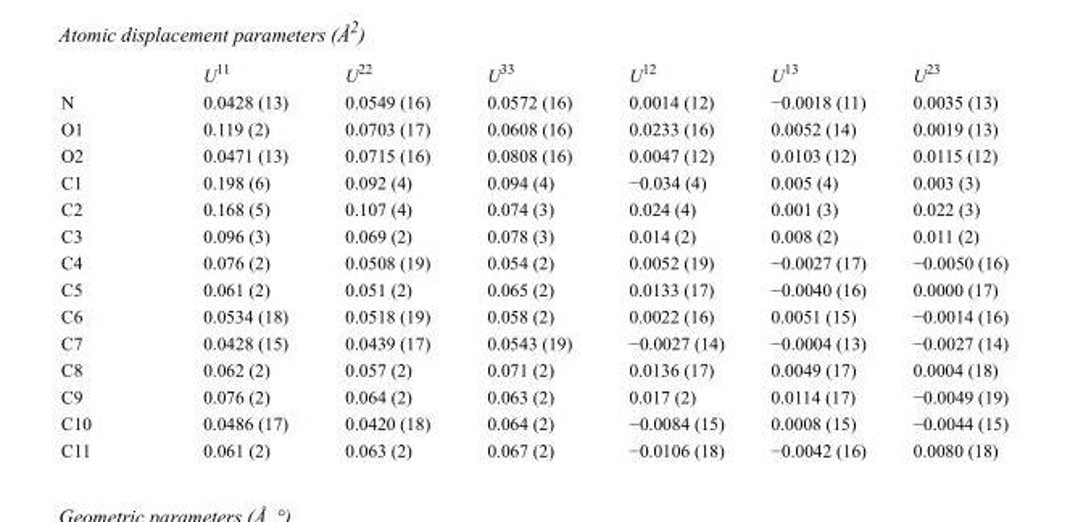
<table><thead><tr><td></td><td>U<sup>11</sup></td><td>U<sup>22</sup></td><td>U<sup>33</sup></td><td>U<sup>12</sup></td><td>U<sup>13</sup></td><td>U<sup>23</sup></td></tr></thead><tbody><tr><td>N</td><td>0.0428 (13)</td><td>0.0549 (16)</td><td>0.0572 (16)</td><td>0.0014 (12)</td><td>−0.0018 (11)</td><td>0.0035 (13)</td></tr><tr><td>O1</td><td>0.119 (2)</td><td>0.0703 (17)</td><td>0.0608 (16)</td><td>0.0233 (16)</td><td>0.0052 (14)</td><td>0.0019 (13)</td></tr><tr><td>O2</td><td>0.0471 (13)</td><td>0.0715 (16)</td><td>0.0808 (16)</td><td>0.0047 (12)</td><td>0.0103 (12)</td><td>0.0115 (12)</td></tr><tr><td>C1</td><td>0.198 (6)</td><td>0.092 (4)</td><td>0.094 (4)</td><td>−0.034 (4)</td><td>0.005 (4)</td><td>0.003 (3)</td></tr><tr><td>C2</td><td>0.168 (5)</td><td>0.107 (4)</td><td>0.074 (3)</td><td>0.024 (4)</td><td>0.001 (3)</td><td>0.022 (3)</td></tr><tr><td>C3</td><td>0.096 (3)</td><td>0.069 (2)</td><td>0.078 (3)</td><td>0.014 (2)</td><td>0.008 (2)</td><td>0.011 (2)</td></tr><tr><td>C4</td><td>0.076 (2)</td><td>0.0508 (19)</td><td>0.054 (2)</td><td>0.0052 (19)</td><td>−0.0027 (17)</td><td>−0.0050 (16)</td></tr><tr><td>C5</td><td>0.061 (2)</td><td>0.051 (2)</td><td>0.065 (2)</td><td>0.0133 (17)</td><td>−0.0040 (16)</td><td>0.0000 (17)</td></tr><tr><td>C6</td><td>0.0534 (18)</td><td>0.0518 (19)</td><td>0.058 (2)</td><td>0.0022 (16)</td><td>0.0051 (15)</td><td>−0.0014 (16)</td></tr><tr><td>C7</td><td>0.0428 (15)</td><td>0.0439 (17)</td><td>0.0543 (19)</td><td>−0.0027 (14)</td><td>−0.0004 (13)</td><td>−0.0027 (14)</td></tr><tr><td>C8</td><td>0.062 (2)</td><td>0.057 (2)</td><td>0.071 (2)</td><td>0.0136 (17)</td><td>0.0049 (17)</td><td>0.0004 (18)</td></tr><tr><td>C9</td><td>0.076 (2)</td><td>0.064 (2)</td><td>0.063 (2)</td><td>0.017 (2)</td><td>0.0114 (17)</td><td>−0.0049 (19)</td></tr><tr><td>C10</td><td>0.0486 (17)</td><td>0.0420 (18)</td><td>0.064 (2)</td><td>−0.0084 (15)</td><td>0.0008 (15)</td><td>−0.0044 (15)</td></tr><tr><td>C11</td><td>0.061 (2)</td><td>0.063 (2)</td><td>0.067 (2)</td><td>−0.0106 (18)</td><td>−0.0042 (16)</td><td>0.0080 (18)</td></tr></tbody></table>